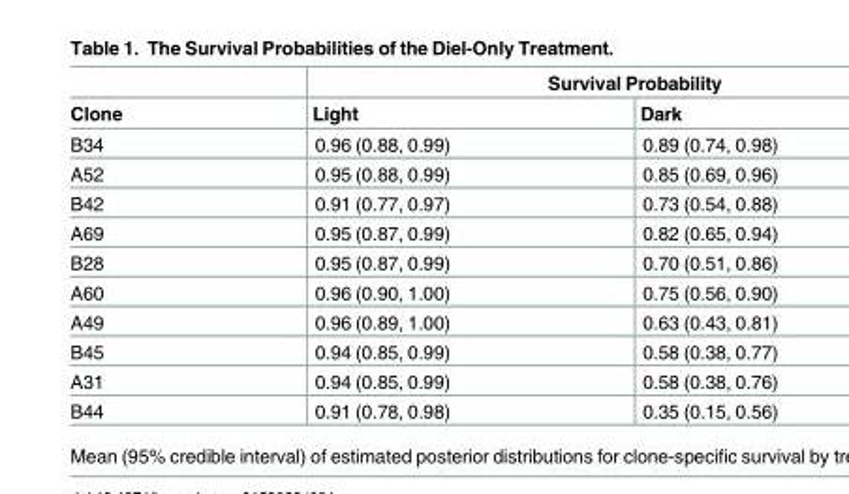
<table><thead><tr><td rowspan="2">Clone</td><td colspan="2">Survival Probability</td></tr><tr><td>Light</td><td>Dark</td></tr></thead><tbody><tr><td>B34</td><td>0.96 (0.88, 0.99)</td><td>0.89 (0.74, 0.98)</td></tr><tr><td>A52</td><td>0.95 (0.88, 0.99)</td><td>0.85 (0.69, 0.96)</td></tr><tr><td>B42</td><td>0.91 (0.77, 0.97)</td><td>0.73 (0.54, 0.88)</td></tr><tr><td>A69</td><td>0.95 (0.87, 0.99)</td><td>0.82 (0.65, 0.94)</td></tr><tr><td>B28</td><td>0.95 (0.87, 0.99)</td><td>0.70 (0.51, 0.86)</td></tr><tr><td>A60</td><td>0.96 (0.90, 1.00)</td><td>0.75 (0.56, 0.90)</td></tr><tr><td>A49</td><td>0.96 (0.89, 1.00)</td><td>0.63 (0.43, 0.81)</td></tr><tr><td>B45</td><td>0.94 (0.85, 0.99)</td><td>0.58 (0.38, 0.77)</td></tr><tr><td>A31</td><td>0.94 (0.85, 0.99)</td><td>0.58 (0.38, 0.76)</td></tr><tr><td>B44</td><td>0.91 (0.78, 0.98)</td><td>0.35 (0.15, 0.56)</td></tr></tbody></table>